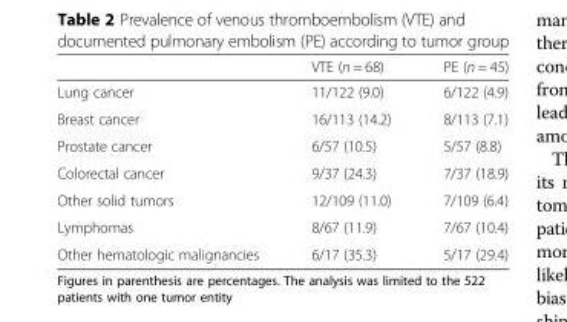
<table><thead><tr><td></td><td>VTE (n = 68)</td><td>PE (n = 45)</td></tr></thead><tbody><tr><td>Lung cancer</td><td>11/122 (9.0)</td><td>6/122 (4.9)</td></tr><tr><td>Breast cancer</td><td>16/113 (14.2)</td><td>8/113 (7.1)</td></tr><tr><td>Prostate cancer</td><td>6/57 (10.5)</td><td>5/57 (8.8)</td></tr><tr><td>Colorectal cancer</td><td>9/37 (24.3)</td><td>7/37 (18.9)</td></tr><tr><td>Other solid tumors</td><td>12/109 (11.0)</td><td>7/109 (6.4)</td></tr><tr><td>Lymphomas</td><td>8/67 (11.9)</td><td>7/67 (10.4)</td></tr><tr><td>Other hematologic malignancies</td><td>6/17 (35.3)</td><td>5/17 (29.4)</td></tr></tbody></table>